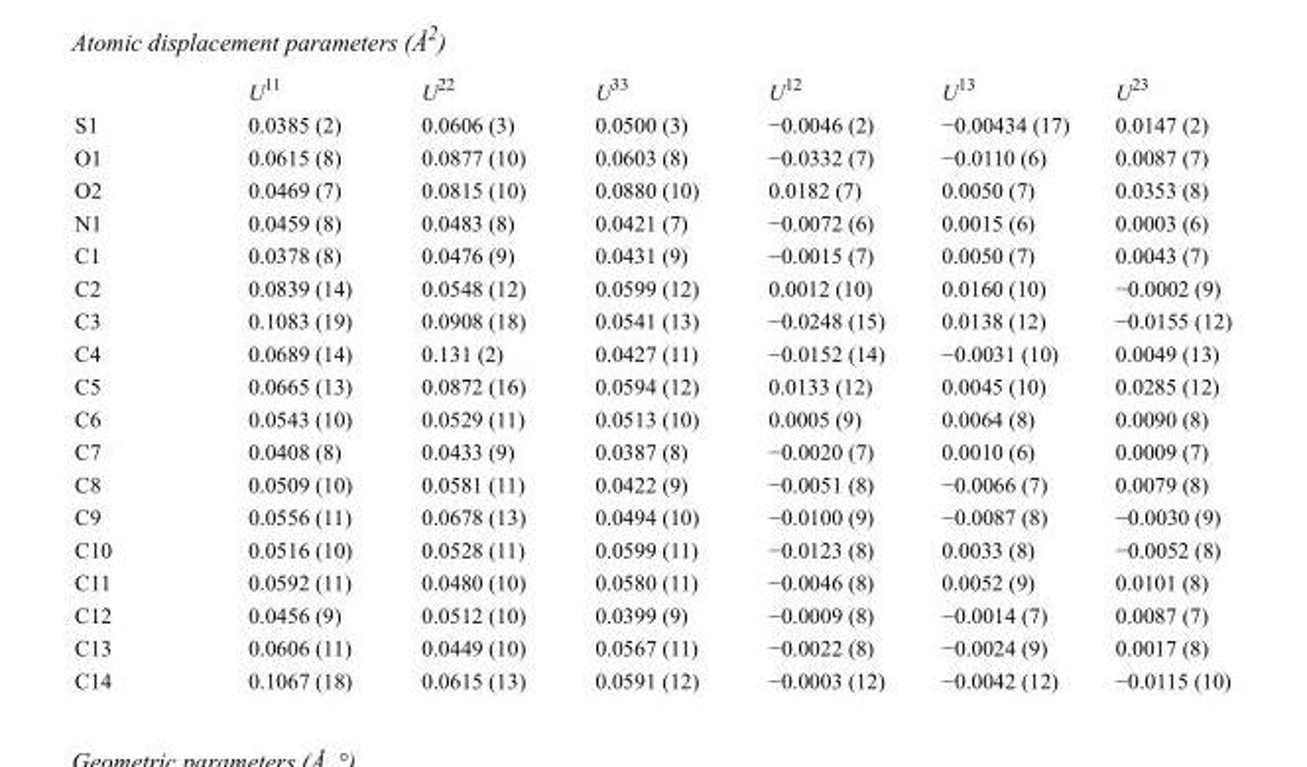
<table><thead><tr><td></td><td>U<sup>11</sup></td><td>U<sup>22</sup></td><td>U<sup>33</sup></td><td>U<sup>12</sup></td><td>U<sup>13</sup></td><td>U<sup>23</sup></td></tr></thead><tbody><tr><td>S1</td><td>0.0385 (2)</td><td>0.0606 (3)</td><td>0.0500 (3)</td><td>−0.0046 (2)</td><td>−0.00434 (17)</td><td>0.0147 (2)</td></tr><tr><td>O1</td><td>0.0615 (8)</td><td>0.0877 (10)</td><td>0.0603 (8)</td><td>−0.0332 (7)</td><td>−0.0110 (6)</td><td>0.0087 (7)</td></tr><tr><td>O2</td><td>0.0469 (7)</td><td>0.0815 (10)</td><td>0.0880 (10)</td><td>0.0182 (7)</td><td>0.0050 (7)</td><td>0.0353 (8)</td></tr><tr><td>N1</td><td>0.0459 (8)</td><td>0.0483 (8)</td><td>0.0421 (7)</td><td>−0.0072 (6)</td><td>0.0015 (6)</td><td>0.0003 (6)</td></tr><tr><td>C1</td><td>0.0378 (8)</td><td>0.0476 (9)</td><td>0.0431 (9)</td><td>−0.0015 (7)</td><td>0.0050 (7)</td><td>0.0043 (7)</td></tr><tr><td>C2</td><td>0.0839 (14)</td><td>0.0548 (12)</td><td>0.0599 (12)</td><td>0.0012 (10)</td><td>0.0160 (10)</td><td>−0.0002 (9)</td></tr><tr><td>C3</td><td>0.1083 (19)</td><td>0.0908 (18)</td><td>0.0541 (13)</td><td>−0.0248 (15)</td><td>0.0138 (12)</td><td>−0.0155 (12)</td></tr><tr><td>C4</td><td>0.0689 (14)</td><td>0.131 (2)</td><td>0.0427 (11)</td><td>−0.0152 (14)</td><td>−0.0031 (10)</td><td>0.0049 (13)</td></tr><tr><td>C5</td><td>0.0665 (13)</td><td>0.0872 (16)</td><td>0.0594 (12)</td><td>0.0133 (12)</td><td>0.0045 (10)</td><td>0.0285 (12)</td></tr><tr><td>C6</td><td>0.0543 (10)</td><td>0.0529 (11)</td><td>0.0513 (10)</td><td>0.0005 (9)</td><td>0.0064 (8)</td><td>0.0090 (8)</td></tr><tr><td>C7</td><td>0.0408 (8)</td><td>0.0433 (9)</td><td>0.0387 (8)</td><td>−0.0020 (7)</td><td>0.0010 (6)</td><td>0.0009 (7)</td></tr><tr><td>C8</td><td>0.0509 (10)</td><td>0.0581 (11)</td><td>0.0422 (9)</td><td>−0.0051 (8)</td><td>−0.0066 (7)</td><td>0.0079 (8)</td></tr><tr><td>C9</td><td>0.0556 (11)</td><td>0.0678 (13)</td><td>0.0494 (10)</td><td>−0.0100 (9)</td><td>−0.0087 (8)</td><td>−0.0030 (9)</td></tr><tr><td>C10</td><td>0.0516 (10)</td><td>0.0528 (11)</td><td>0.0599 (11)</td><td>−0.0123 (8)</td><td>0.0033 (8)</td><td>−0.0052 (8)</td></tr><tr><td>C11</td><td>0.0592 (11)</td><td>0.0480 (10)</td><td>0.0580 (11)</td><td>−0.0046 (8)</td><td>0.0052 (9)</td><td>0.0101 (8)</td></tr><tr><td>C12</td><td>0.0456 (9)</td><td>0.0512 (10)</td><td>0.0399 (9)</td><td>−0.0009 (8)</td><td>−0.0014 (7)</td><td>0.0087 (7)</td></tr><tr><td>C13</td><td>0.0606 (11)</td><td>0.0449 (10)</td><td>0.0567 (11)</td><td>−0.0022 (8)</td><td>−0.0024 (9)</td><td>0.0017 (8)</td></tr><tr><td>C14</td><td>0.1067 (18)</td><td>0.0615 (13)</td><td>0.0591 (12)</td><td>−0.0003 (12)</td><td>−0.0042 (12)</td><td>−0.0115 (10)</td></tr></tbody></table>